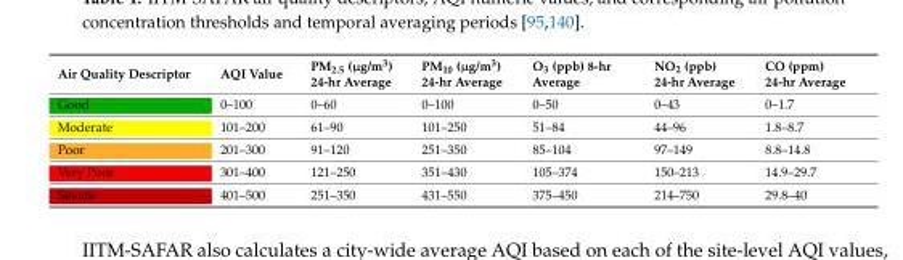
<table><thead><tr><td>Air Quality Descriptor</td><td>AQI Value</td><td>PM<sub>2.5</sub> (µg/m<sup>3</sup>) 24-hr Average</td><td>PM<sub>10</sub> (µg/m<sup>3</sup>) 24-hr Average</td><td>O<sub>3</sub> (ppb) 8-hr Average</td><td>NO<sub>2</sub> (ppb) 24-hr Average</td><td>CO (ppm) 24-hr Average</td></tr></thead><tbody><tr><td>Good</td><td>0–100</td><td>0–60</td><td>0–100</td><td>0–50</td><td>0–43</td><td>0–1.7</td></tr><tr><td>Moderate</td><td>101–200</td><td>61–90</td><td>101–250</td><td>51–84</td><td>44–96</td><td>1.8–8.7</td></tr><tr><td>Poor</td><td>201–300</td><td>91–120</td><td>251–350</td><td>85–104</td><td>97–149</td><td>8.8–14.8</td></tr><tr><td>Very Poor</td><td>301–400</td><td>121–250</td><td>351–430</td><td>105–374</td><td>150–213</td><td>14.9–29.7</td></tr><tr><td>Severe</td><td>401–500</td><td>251–350</td><td>431–550</td><td>375–450</td><td>214–750</td><td>29.8–40</td></tr></tbody></table>